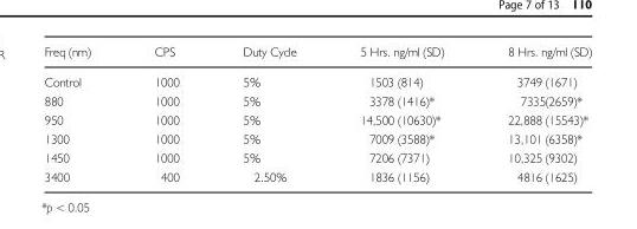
<table><thead><tr><td>Freq (nm)</td><td>CPS</td><td>Duty Cycle</td><td>5 Hrs. ng/ml (SD)</td><td>8 Hrs. ng/ml (SD)</td></tr></thead><tbody><tr><td>Control</td><td>1000</td><td>5%</td><td>1503 (814)</td><td>3749 (1671)</td></tr><tr><td>880</td><td>1000</td><td>5%</td><td>3378 (1416)*</td><td>7335(2659)*</td></tr><tr><td>950</td><td>1000</td><td>5%</td><td>14,500 (10630)*</td><td>22,888 (15543)*</td></tr><tr><td>1300</td><td>1000</td><td>5%</td><td>7009 (3588)*</td><td>13,101 (6358)*</td></tr><tr><td>1450</td><td>1000</td><td>5%</td><td>7206 (7371)</td><td>10,325 (9302)</td></tr><tr><td>3400</td><td>400</td><td>2.50%</td><td>1836 (1156)</td><td>4816 (1625)</td></tr></tbody></table>